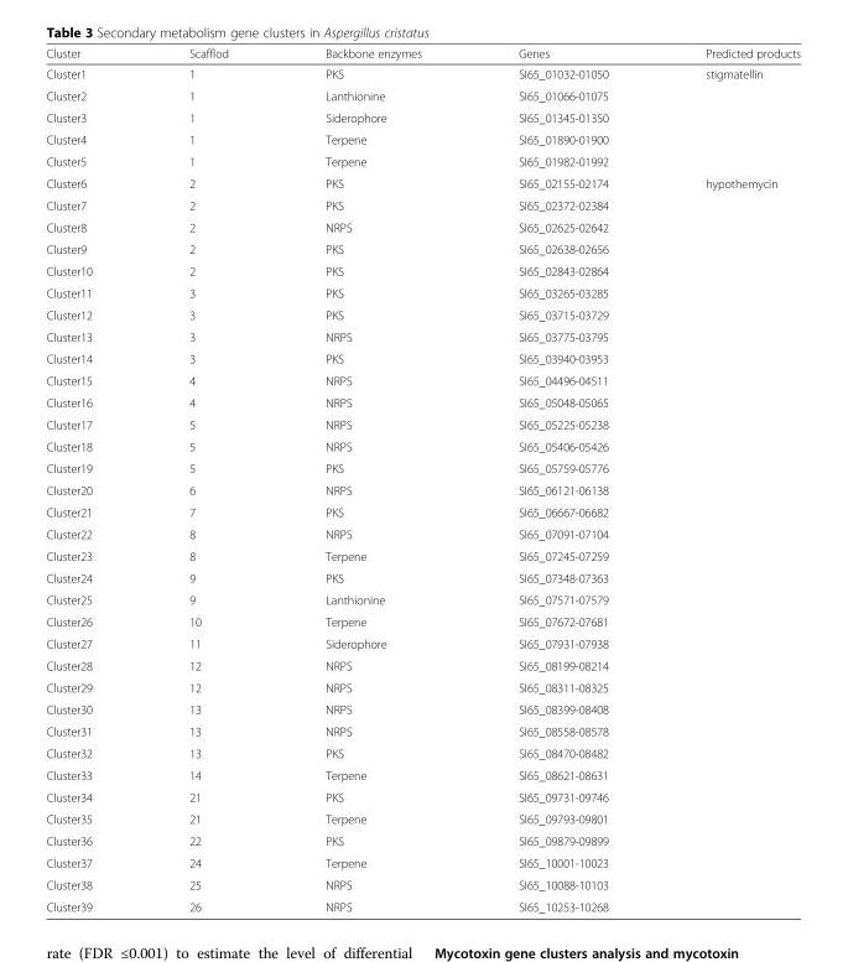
<table><thead><tr><td>Cluster</td><td>Scafflod</td><td>Backbone enzymes</td><td>Genes</td><td>Predicted products</td></tr></thead><tbody><tr><td>Cluster1</td><td>1</td><td>PKS</td><td>SI65_01032-01050</td><td>stigmatellin</td></tr><tr><td>Cluster2</td><td>1</td><td>Lanthionine</td><td>SI65_01066-01075</td><td></td></tr><tr><td>Cluster3</td><td>1</td><td>Siderophore</td><td>SI65_01345-01350</td><td></td></tr><tr><td>Cluster4</td><td>1</td><td>Terpene</td><td>SI65_01890-01900</td><td></td></tr><tr><td>Cluster5</td><td>1</td><td>Terpene</td><td>SI65_01982-01992</td><td></td></tr><tr><td>Cluster6</td><td>2</td><td>PKS</td><td>SI65_02155-02174</td><td>hypothemycin</td></tr><tr><td>Cluster7</td><td>2</td><td>PKS</td><td>SI65_02372-02384</td><td></td></tr><tr><td>Cluster8</td><td>2</td><td>NRPS</td><td>SI65_02625-02642</td><td></td></tr><tr><td>Cluster9</td><td>2</td><td>PKS</td><td>SI65_02638-02656</td><td></td></tr><tr><td>Cluster10</td><td>2</td><td>PKS</td><td>SI65_02843-02864</td><td></td></tr><tr><td>Cluster11</td><td>3</td><td>PKS</td><td>SI65_03265-03285</td><td></td></tr><tr><td>Cluster12</td><td>3</td><td>PKS</td><td>SI65_03715-03729</td><td></td></tr><tr><td>Cluster13</td><td>3</td><td>NRPS</td><td>SI65_03775-03795</td><td></td></tr><tr><td>Cluster14</td><td>3</td><td>PKS</td><td>SI65_03940-03953</td><td></td></tr><tr><td>Cluster15</td><td>4</td><td>NRPS</td><td>SI65_04496-04511</td><td></td></tr><tr><td>Cluster16</td><td>4</td><td>NRPS</td><td>SI65_05048-05065</td><td></td></tr><tr><td>Cluster17</td><td>5</td><td>NRPS</td><td>SI65_05225-05238</td><td></td></tr><tr><td>Cluster18</td><td>5</td><td>NRPS</td><td>SI65_05406-05426</td><td></td></tr><tr><td>Cluster19</td><td>5</td><td>PKS</td><td>SI65_05759-05776</td><td></td></tr><tr><td>Cluster20</td><td>6</td><td>NRPS</td><td>SI65_06121-06138</td><td></td></tr><tr><td>Cluster21</td><td>7</td><td>PKS</td><td>SI65_06667-06682</td><td></td></tr><tr><td>Cluster22</td><td>8</td><td>NRPS</td><td>SI65_07091-07104</td><td></td></tr><tr><td>Cluster23</td><td>8</td><td>Terpene</td><td>SI65_07245-07259</td><td></td></tr><tr><td>Cluster24</td><td>9</td><td>PKS</td><td>SI65_07348-07363</td><td></td></tr><tr><td>Cluster25</td><td>9</td><td>Lanthionine</td><td>SI65_07571-07579</td><td></td></tr><tr><td>Cluster26</td><td>10</td><td>Terpene</td><td>SI65_07672-07681</td><td></td></tr><tr><td>Cluster27</td><td>11</td><td>Siderophore</td><td>SI65_07931-07938</td><td></td></tr><tr><td>Cluster28</td><td>12</td><td>NRPS</td><td>SI65_08199-08214</td><td></td></tr><tr><td>Cluster29</td><td>12</td><td>NRPS</td><td>SI65_08311-08325</td><td></td></tr><tr><td>Cluster30</td><td>13</td><td>NRPS</td><td>SI65_08399-08408</td><td></td></tr><tr><td>Cluster31</td><td>13</td><td>NRPS</td><td>SI65_08558-08578</td><td></td></tr><tr><td>Cluster32</td><td>13</td><td>PKS</td><td>SI65_08470-08482</td><td></td></tr><tr><td>Cluster33</td><td>14</td><td>Terpene</td><td>SI65_08621-08631</td><td></td></tr><tr><td>Cluster34</td><td>21</td><td>PKS</td><td>SI65_09731-09746</td><td></td></tr><tr><td>Cluster35</td><td>21</td><td>Terpene</td><td>SI65_09793-09801</td><td></td></tr><tr><td>Cluster36</td><td>22</td><td>PKS</td><td>SI65_09879-09899</td><td></td></tr><tr><td>Cluster37</td><td>24</td><td>Terpene</td><td>SI65_10001-10023</td><td></td></tr><tr><td>Cluster38</td><td>25</td><td>NRPS</td><td>SI65_10088-10103</td><td></td></tr><tr><td>Cluster39</td><td>26</td><td>NRPS</td><td>SI65_10253-10268</td><td></td></tr></tbody></table>